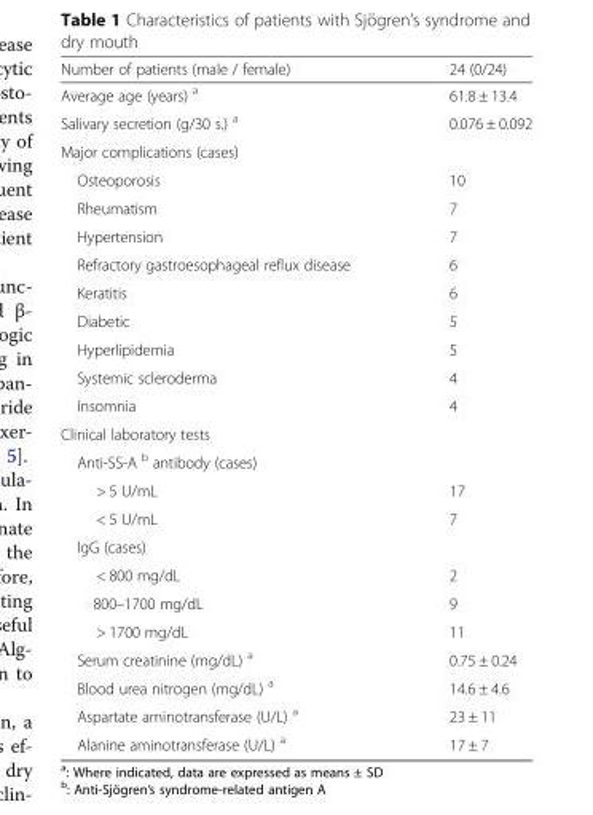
<table><thead><tr><td>Number of patients (male / female)</td><td>24 (0/24)</td></tr></thead><tbody><tr><td>Average age (years) <sup>a</sup></td><td>61.8 ± 13.4</td></tr><tr><td>Salivary secretion (g/30 s.) <sup>a</sup></td><td>0.076 ± 0.092</td></tr><tr><td colspan="2">Major complications (cases)</td></tr><tr><td>Osteoporosis</td><td>10</td></tr><tr><td>Rheumatism</td><td>7</td></tr><tr><td>Hypertension</td><td>7</td></tr><tr><td>Refractory gastroesophageal reflux disease</td><td>6</td></tr><tr><td>Keratitis</td><td>6</td></tr><tr><td>Diabetic</td><td>5</td></tr><tr><td>Hyperlipidemia</td><td>5</td></tr><tr><td>Systemic scleroderma</td><td>4</td></tr><tr><td>Insomnia</td><td>4</td></tr><tr><td colspan="2">Clinical laboratory tests</td></tr><tr><td colspan="2">Anti-SS-A <sup>b</sup> antibody (cases)</td></tr><tr><td>&gt; 5 U/mL</td><td>17</td></tr><tr><td>&lt; 5 U/mL</td><td>7</td></tr><tr><td colspan="2">IgG (cases)</td></tr><tr><td>&lt; 800 mg/dL</td><td>2</td></tr><tr><td>800–1700 mg/dL</td><td>9</td></tr><tr><td>&gt; 1700 mg/dL</td><td>11</td></tr><tr><td>Serum creatinine (mg/dL) <sup>a</sup></td><td>0.75 ± 0.24</td></tr><tr><td>Blood urea nitrogen (mg/dL) <sup>a</sup></td><td>14.6 ± 4.6</td></tr><tr><td>Aspartate aminotransferase (U/L) <sup>a</sup></td><td>23 ± 11</td></tr><tr><td>Alanine aminotransferase (U/L) <sup>a</sup></td><td>17 ± 7</td></tr></tbody></table>